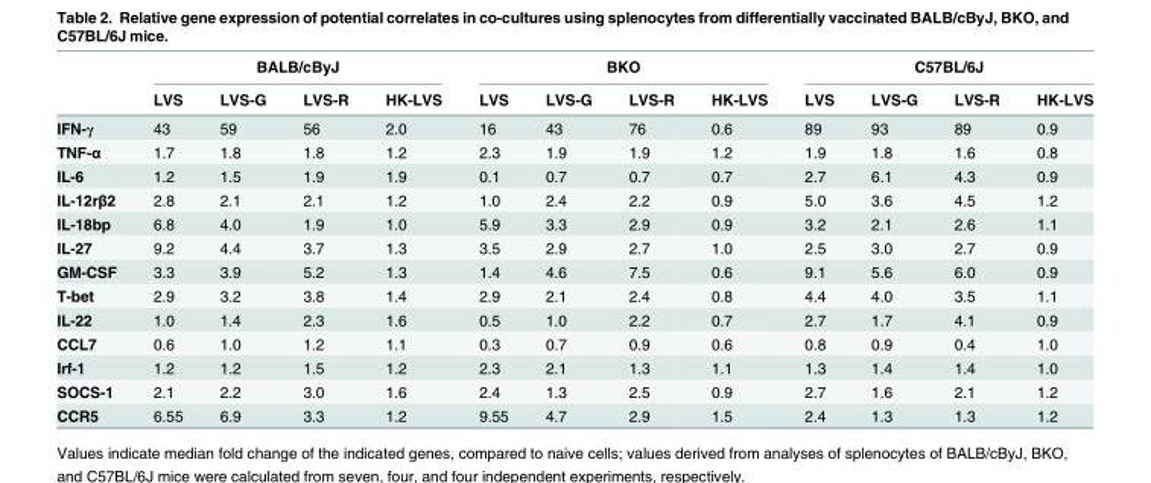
<table><thead><tr><td rowspan="2"></td><td colspan="4">BALB/cByJ</td><td colspan="4">BKO</td><td colspan="4">C57BL/6J</td></tr><tr><td>LVS</td><td>LVS-G</td><td>LVS-R</td><td>HK-LVS</td><td>LVS</td><td>LVS-G</td><td>LVS-R</td><td>HK-LVS</td><td>LVS</td><td>LVS-G</td><td>LVS-R</td><td>HK-LVS</td></tr></thead><tbody><tr><td>IFN-γ</td><td>43</td><td>59</td><td>56</td><td>2.0</td><td>16</td><td>43</td><td>76</td><td>0.6</td><td>89</td><td>93</td><td>89</td><td>0.9</td></tr><tr><td>TNF-α</td><td>1.7</td><td>1.8</td><td>1.8</td><td>1.2</td><td>2.3</td><td>1.9</td><td>1.9</td><td>1.2</td><td>1.9</td><td>1.8</td><td>1.6</td><td>0.8</td></tr><tr><td>IL-6</td><td>1.2</td><td>1.5</td><td>1.9</td><td>1.9</td><td>0.1</td><td>0.7</td><td>0.7</td><td>0.7</td><td>2.7</td><td>6.1</td><td>4.3</td><td>0.9</td></tr><tr><td>IL-12rβ2</td><td>2.8</td><td>2.1</td><td>2.1</td><td>1.2</td><td>1.0</td><td>2.4</td><td>2.2</td><td>0.9</td><td>5.0</td><td>3.6</td><td>4.5</td><td>1.2</td></tr><tr><td>IL-18bp</td><td>6.8</td><td>4.0</td><td>1.9</td><td>1.0</td><td>5.9</td><td>3.3</td><td>2.9</td><td>0.9</td><td>3.2</td><td>2.1</td><td>2.6</td><td>1.1</td></tr><tr><td>IL-27</td><td>9.2</td><td>4.4</td><td>3.7</td><td>1.3</td><td>3.5</td><td>2.9</td><td>2.7</td><td>1.0</td><td>2.5</td><td>3.0</td><td>2.7</td><td>0.9</td></tr><tr><td>GM-CSF</td><td>3.3</td><td>3.9</td><td>5.2</td><td>1.3</td><td>1.4</td><td>4.6</td><td>7.5</td><td>0.6</td><td>9.1</td><td>5.6</td><td>6.0</td><td>0.9</td></tr><tr><td>T-bet</td><td>2.9</td><td>3.2</td><td>3.8</td><td>1.4</td><td>2.9</td><td>2.1</td><td>2.4</td><td>0.8</td><td>4.4</td><td>4.0</td><td>3.5</td><td>1.1</td></tr><tr><td>IL-22</td><td>1.0</td><td>1.4</td><td>2.3</td><td>1.6</td><td>0.5</td><td>1.0</td><td>2.2</td><td>0.7</td><td>2.7</td><td>1.7</td><td>4.1</td><td>0.9</td></tr><tr><td>CCL7</td><td>0.6</td><td>1.0</td><td>1.2</td><td>1.1</td><td>0.3</td><td>0.7</td><td>0.9</td><td>0.6</td><td>0.8</td><td>0.9</td><td>0.4</td><td>1.0</td></tr><tr><td>Irf-1</td><td>1.2</td><td>1.2</td><td>1.5</td><td>1.2</td><td>2.3</td><td>2.1</td><td>1.3</td><td>1.1</td><td>1.3</td><td>1.4</td><td>1.4</td><td>1.0</td></tr><tr><td>SOCS-1</td><td>2.1</td><td>2.2</td><td>3.0</td><td>1.6</td><td>2.4</td><td>1.3</td><td>2.5</td><td>0.9</td><td>2.7</td><td>1.6</td><td>2.1</td><td>1.2</td></tr><tr><td>CCR5</td><td>6.55</td><td>6.9</td><td>3.3</td><td>1.2</td><td>9.55</td><td>4.7</td><td>2.9</td><td>1.5</td><td>2.4</td><td>1.3</td><td>1.3</td><td>1.2</td></tr></tbody></table>